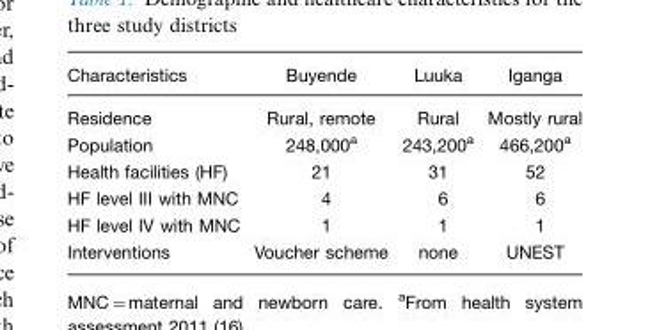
<table><thead><tr><td>Characteristics</td><td>Buyende</td><td>Luuka</td><td>Iganga</td></tr></thead><tbody><tr><td>Residence</td><td>Rural, remote</td><td>Rural</td><td>Mostly rural</td></tr><tr><td>Population</td><td>248,000<sup>a</sup></td><td>243,200<sup>a</sup></td><td>466,200<sup>a</sup></td></tr><tr><td>Health facilities (HF)</td><td>21</td><td>31</td><td>52</td></tr><tr><td>HF level III with MNC</td><td>4</td><td>6</td><td>6</td></tr><tr><td>HF level IV with MNC</td><td>1</td><td>1</td><td>1</td></tr><tr><td>Interventions</td><td>Voucher scheme</td><td>none</td><td>UNEST</td></tr></tbody></table>